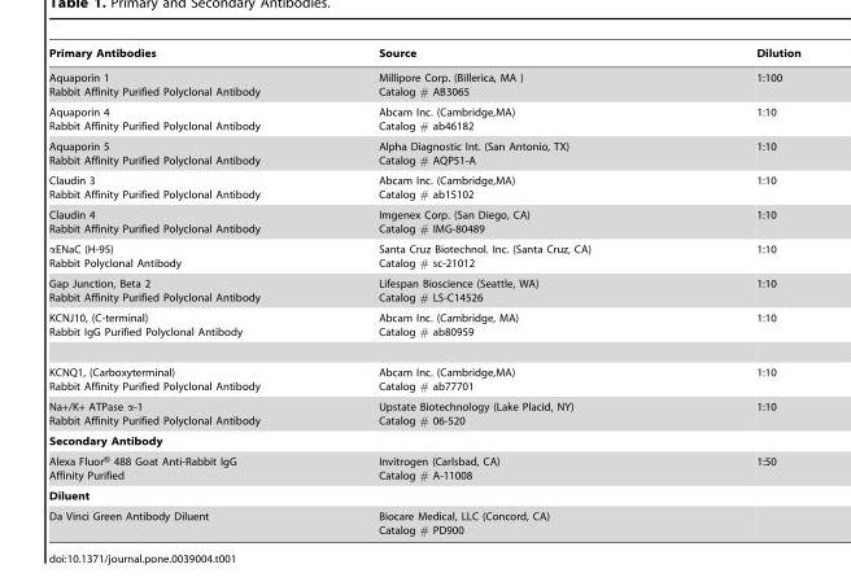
<table><thead><tr><td>Primary Antibodies</td><td>Source</td><td>Dilution</td></tr></thead><tbody><tr><td>Aquaporin 1 Rabbit Affinity Purified Polyclonal Antibody</td><td>Millipore Corp. (Billerica, MA ) Catalog # AB3065</td><td>1:100</td></tr><tr><td>Aquaporin 4 Rabbit Affinity Purified Polyclonal Antibody</td><td>Abcam Inc. (Cambridge,MA) Catalog # ab46182</td><td>1:10</td></tr><tr><td>Aquaporin 5 Rabbit Affinity Purified Polyclonal Antibody</td><td>Alpha Diagnostic Int. (San Antonio, TX) Catalog # AQP51-A</td><td>1:10</td></tr><tr><td>Claudin 3 Rabbit Affinity Purified Polyclonal Antibody</td><td>Abcam Inc. (Cambridge,MA) Catalog # ab15102</td><td>1:10</td></tr><tr><td>Claudin 4 Rabbit Affinity Purified Polyclonal Antibody</td><td>Imgenex Corp. (San Diego, CA) Catalog # IMG-80489</td><td>1:10</td></tr><tr><td>αENaC (H-95) Rabbit Polyclonal Antibody</td><td>Santa Cruz Biotechnol. Inc. (Santa Cruz, CA) Catalog # sc-21012</td><td>1:10</td></tr><tr><td>Gap Junction, Beta 2 Rabbit Affinity Purified Polyclonal Antibody</td><td>Lifespan Bioscience (Seattle, WA) Catalog # LS-C14526</td><td>1:10</td></tr><tr><td>KCNJ10, (C-terminal) Rabbit IgG Purified Polyclonal Antibody</td><td>Abcam Inc. (Cambridge, MA) Catalog # ab80959</td><td>1:10</td></tr><tr><td>KCNQ1, (Carboxyterminal) Rabbit Affinity Purified Polyclonal Antibody</td><td>Abcam Inc. (Cambridge,MA) Catalog # ab77701</td><td>1:10</td></tr><tr><td>Na+/K+ ATPase α-1 Rabbit Affinity Purified Polyclonal Antibody</td><td>Upstate Biotechnology (Lake Placid, NY) Catalog # 06-520</td><td>1:10</td></tr><tr><td colspan="3">Secondary Antibody</td></tr><tr><td>Alexa Fluor® 488 Goat Anti-Rabbit IgG Affinity Purified</td><td>Invitrogen (Carlsbad, CA) Catalog # A-11008</td><td>1:50</td></tr><tr><td colspan="3">Diluent</td></tr><tr><td>Da Vinci Green Antibody Diluent</td><td>Biocare Medical, LLC (Concord, CA) Catalog # PD900</td><td></td></tr></tbody></table>